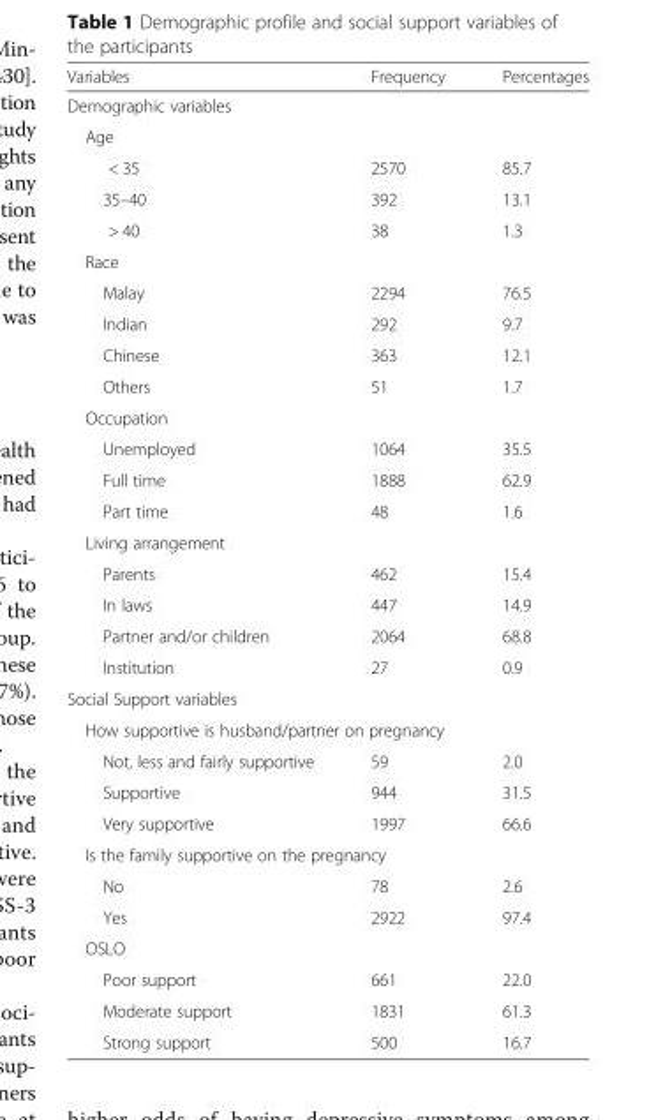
<table><thead><tr><td>Variables</td><td>Frequency</td><td>Percentages</td></tr></thead><tbody><tr><td colspan="3">Demographic variables</td></tr><tr><td colspan="3">Age</td></tr><tr><td>&lt; 35</td><td>2570</td><td>85.7</td></tr><tr><td>35–40</td><td>392</td><td>13.1</td></tr><tr><td>&gt; 40</td><td>38</td><td>1.3</td></tr><tr><td colspan="3">Race</td></tr><tr><td>Malay</td><td>2294</td><td>76.5</td></tr><tr><td>Indian</td><td>292</td><td>9.7</td></tr><tr><td>Chinese</td><td>363</td><td>12.1</td></tr><tr><td>Others</td><td>51</td><td>1.7</td></tr><tr><td colspan="3">Occupation</td></tr><tr><td>Unemployed</td><td>1064</td><td>35.5</td></tr><tr><td>Full time</td><td>1888</td><td>62.9</td></tr><tr><td>Part time</td><td>48</td><td>1.6</td></tr><tr><td colspan="3">Living arrangement</td></tr><tr><td>Parents</td><td>462</td><td>15.4</td></tr><tr><td>In laws</td><td>447</td><td>14.9</td></tr><tr><td>Partner and/or children</td><td>2064</td><td>68.8</td></tr><tr><td>Institution</td><td>27</td><td>0.9</td></tr><tr><td colspan="3">Social Support variables</td></tr><tr><td colspan="3">How supportive is husband/partner on pregnancy</td></tr><tr><td>Not, less and fairly supportive</td><td>59</td><td>2.0</td></tr><tr><td>Supportive</td><td>944</td><td>31.5</td></tr><tr><td>Very supportive</td><td>1997</td><td>66.6</td></tr><tr><td colspan="3">Is the family supportive on the pregnancy</td></tr><tr><td>No</td><td>78</td><td>2.6</td></tr><tr><td>Yes</td><td>2922</td><td>97.4</td></tr><tr><td colspan="3">OSLO</td></tr><tr><td>Poor support</td><td>661</td><td>22.0</td></tr><tr><td>Moderate support</td><td>1831</td><td>61.3</td></tr><tr><td>Strong support</td><td>500</td><td>16.7</td></tr></tbody></table>